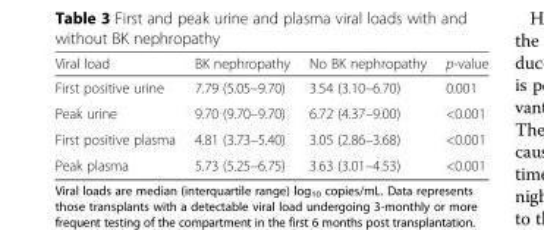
<table><thead><tr><td>Viral load</td><td>BK nephropathy</td><td>No BK nephropathy</td><td>p-value</td></tr></thead><tbody><tr><td>First positive urine</td><td>7.79 (5.05–9.70)</td><td>3.54 (3.10–6.70)</td><td>0.001</td></tr><tr><td>Peak urine</td><td>9.70 (9.70–9.70)</td><td>6.72 (4.37–9.00)</td><td>&lt;0.001</td></tr><tr><td>First positive plasma</td><td>4.81 (3.73–5.40)</td><td>3.05 (2.86–3.68)</td><td>&lt;0.001</td></tr><tr><td>Peak plasma</td><td>5.73 (5.25–6.75)</td><td>3.63 (3.01–4.53)</td><td>&lt;0.001</td></tr></tbody></table>